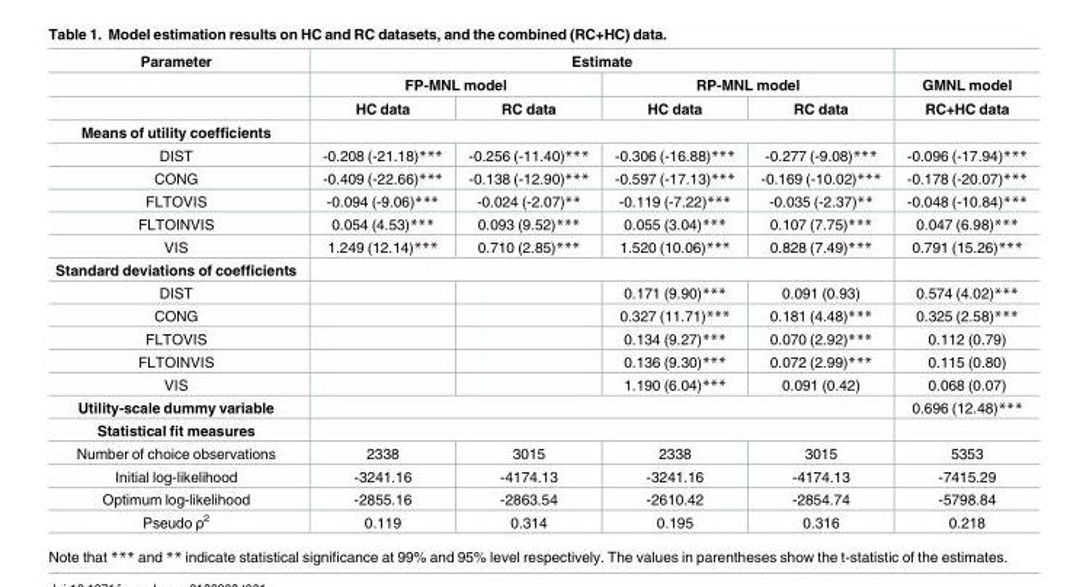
<table><thead><tr><td rowspan="3">Parameter</td><td colspan="4">Estimate</td><td rowspan="3">GMNL model RC+HC data</td></tr><tr><td colspan="2">FP-MNL model</td><td colspan="2">RP-MNL model</td></tr><tr><td>HC data</td><td>RC data</td><td>HC data</td><td>RC data</td></tr></thead><tbody><tr><td colspan="6">Means of utility coefficients</td></tr><tr><td>DIST</td><td>-0.208 (-21.18)***</td><td>-0.256 (-11.40)***</td><td>-0.306 (-16.88)***</td><td>-0.277 (-9.08)***</td><td>-0.096 (-17.94)***</td></tr><tr><td>CONG</td><td>-0.409 (-22.66)***</td><td>-0.138 (-12.90)***</td><td>-0.597 (-17.13)***</td><td>-0.169 (-10.02)***</td><td>-0.178 (-20.07)***</td></tr><tr><td>FLTOVIS</td><td>-0.094 (-9.06)***</td><td>-0.024 (-2.07)**</td><td>-0.119 (-7.22)***</td><td>-0.035 (-2.37)**</td><td>-0.048 (-10.84)***</td></tr><tr><td>FLTOINVIS</td><td>0.054 (4.53)***</td><td>0.093 (9.52)***</td><td>0.055 (3.04)***</td><td>0.107 (7.75)***</td><td>0.047 (6.98)***</td></tr><tr><td>VIS</td><td>1.249 (12.14)***</td><td>0.710 (2.85)***</td><td>1.520 (10.06)***</td><td>0.828 (7.49)***</td><td>0.791 (15.26)***</td></tr><tr><td colspan="6">Standard deviations of coefficients</td></tr><tr><td>DIST</td><td></td><td></td><td>0.171 (9.90)***</td><td>0.091 (0.93)</td><td>0.574 (4.02)***</td></tr><tr><td>CONG</td><td></td><td></td><td>0.327 (11.71)***</td><td>0.181 (4.48)***</td><td>0.325 (2.58)***</td></tr><tr><td>FLTOVIS</td><td></td><td></td><td>0.134 (9.27)***</td><td>0.070 (2.92)***</td><td>0.112 (0.79)</td></tr><tr><td>FLTOINVIS</td><td></td><td></td><td>0.136 (9.30)***</td><td>0.072 (2.99)***</td><td>0.115 (0.80)</td></tr><tr><td>VIS</td><td></td><td></td><td>1.190 (6.04)***</td><td>0.091 (0.42)</td><td>0.068 (0.07)</td></tr><tr><td>Utility-scale dummy variable</td><td colspan="4"></td><td>0.696 (12.48)***</td></tr><tr><td colspan="6">Statistical fit measures</td></tr><tr><td>Number of choice observations</td><td>2338</td><td>3015</td><td>2338</td><td>3015</td><td>5353</td></tr><tr><td>Initial log-likelihood</td><td>-3241.16</td><td>-4174.13</td><td>-3241.16</td><td>-4174.13</td><td>-7415.29</td></tr><tr><td>Optimum log-likelihood</td><td>-2855.16</td><td>-2863.54</td><td>-2610.42</td><td>-2854.74</td><td>-5798.84</td></tr><tr><td>Pseudo ρ<sup>2</sup></td><td>0.119</td><td>0.314</td><td>0.195</td><td>0.316</td><td>0.218</td></tr></tbody></table>